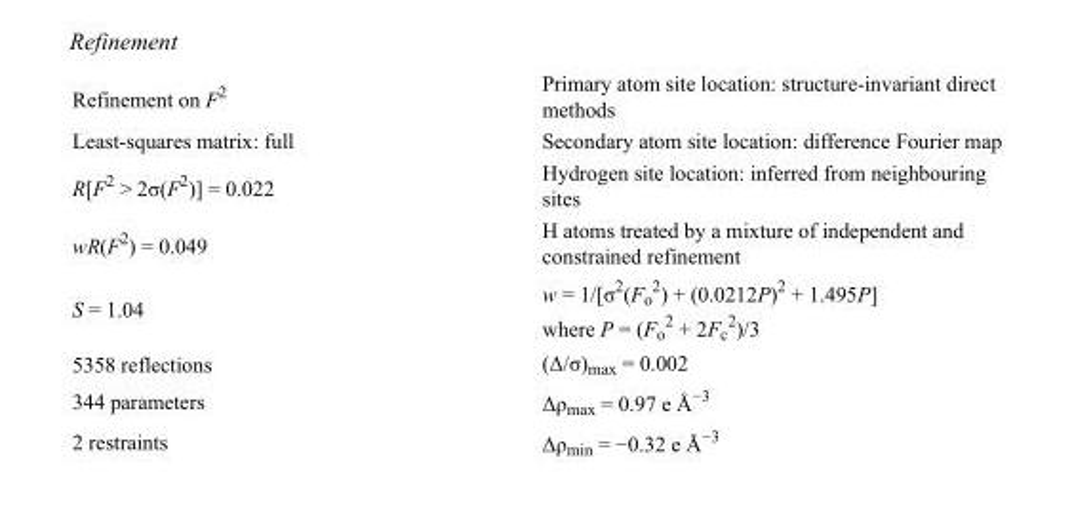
<table><tbody><tr><td>Refinement on F<sup>2</sup></td><td>Primary atom site location: structure-invariant direct methods</td></tr><tr><td>Least-squares matrix: full</td><td>Secondary atom site location: difference Fourier map</td></tr><tr><td>R[F<sup>2</sup> &gt; 2σ(F<sup>2</sup>)] = 0.022</td><td>Hydrogen site location: inferred from neighbouring sites</td></tr><tr><td>wR(F<sup>2</sup>) = 0.049</td><td>H atoms treated by a mixture of independent and constrained refinement</td></tr><tr><td>S = 1.04</td><td>w = 1/[σ<sup>2</sup>(F<sub>o</sub> <sup>2</sup>) + (0.0212P)<sup>2</sup> + 1.495P] where P = (F<sub>o</sub> <sup>2</sup> + 2F<sub>c</sub> <sup>2</sup>)/3</td></tr><tr><td>5358 reflections</td><td>(Δ/σ)<sub>max</sub> = 0.002</td></tr><tr><td>344 parameters</td><td>Δρ<sub>max</sub> = 0.97 e Å<sup>−3</sup></td></tr><tr><td>2 restraints</td><td>Δρ<sub>min</sub> = −0.32 e Å<sup>−3</sup></td></tr></tbody></table>